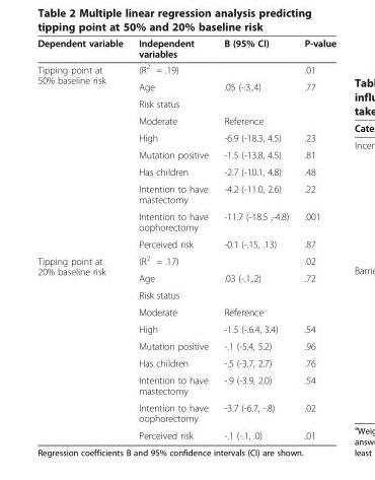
<table><thead><tr><td>Dependent variable</td><td>Independent variables</td><td>B (95% CI)</td><td>P-value</td></tr></thead><tbody><tr><td rowspan="10">Tipping point at 50% baseline risk</td><td>(R<sup>2</sup> = .19)</td><td></td><td>.01</td></tr><tr><td>Age</td><td>.05 (-.3,.4)</td><td>.77</td></tr><tr><td>Risk status</td><td></td><td></td></tr><tr><td>Moderate</td><td>Reference</td><td></td></tr><tr><td>High</td><td>-6.9 (-18.3, 4.5)</td><td>.23</td></tr><tr><td>Mutation positive</td><td>-1.5 (-13.8, 4.5)</td><td>.81</td></tr><tr><td>Has children</td><td>-2.7 (-10.1, 4.8)</td><td>.48</td></tr><tr><td>Intention to have mastectomy</td><td>-4.2 (-11.0, 2.6)</td><td>.22</td></tr><tr><td>Intention to have oophorectomy</td><td>-11.7 (-18.5 ,-4.8)</td><td>.001</td></tr><tr><td>Perceived risk</td><td>-0.1 (-.15, .13)</td><td>.87</td></tr><tr><td rowspan="10">Tipping point at 20% baseline risk</td><td>(R<sup>2</sup> = .17)</td><td></td><td>.02</td></tr><tr><td>Age</td><td>.03 (-.1,.2)</td><td>.72</td></tr><tr><td>Risk status</td><td></td><td></td></tr><tr><td>Moderate</td><td>Reference</td><td></td></tr><tr><td>High</td><td>-1.5 (-.6.4, 3.4)</td><td>.54</td></tr><tr><td>Mutation positive</td><td>-.1 (-5.4, 5.2)</td><td>.96</td></tr><tr><td>Has children</td><td>-.5 (-3.7, 2.7)</td><td>.76</td></tr><tr><td>Intention to have mastectomy</td><td>-.9 (-3.9, 2.0)</td><td>.54</td></tr><tr><td>Intention to have oophorectomy</td><td>-3.7 (-6.7, -.8)</td><td>.02</td></tr><tr><td>Perceived risk</td><td>-.1 (-.1, .0)</td><td>.01</td></tr></tbody></table>